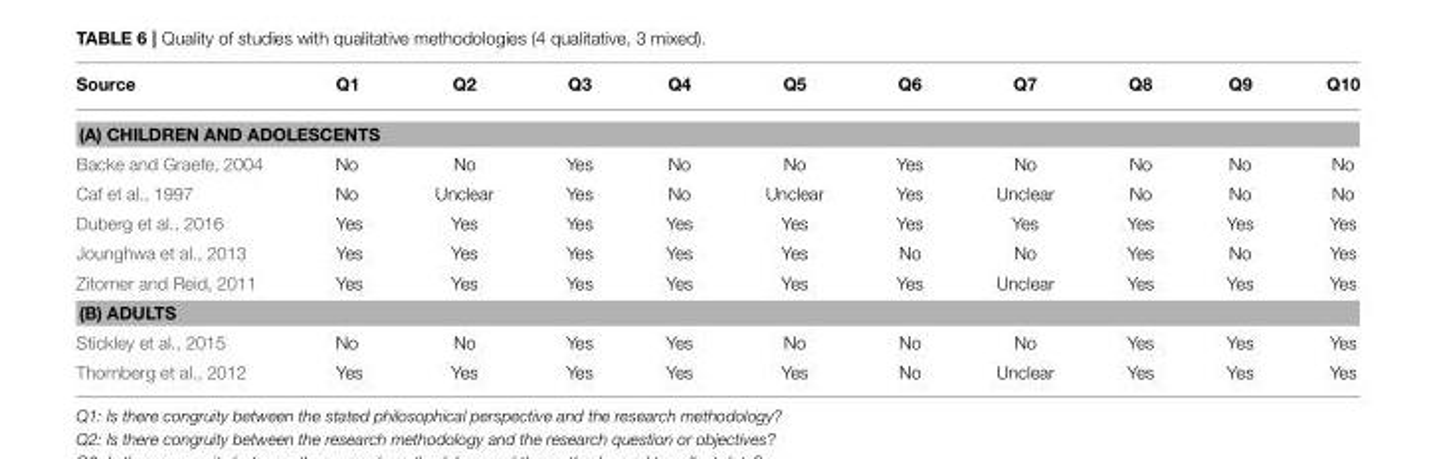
<table><thead><tr><td>Source</td><td>Q1</td><td>Q2</td><td>Q3</td><td>Q4</td><td>Q5</td><td>Q6</td><td>Q7</td><td>Q8</td><td>Q9</td><td>Q10</td></tr></thead><tbody><tr><td colspan="11">(A) CHILDREN AND ADOLESCENTS</td></tr><tr><td>Backe and Graefe, 2004</td><td>No</td><td>No</td><td>Yes</td><td>No</td><td>No</td><td>Yes</td><td>No</td><td>No</td><td>No</td><td>No</td></tr><tr><td>Caf et al., 1997</td><td>No</td><td>Unclear</td><td>Yes</td><td>No</td><td>Unclear</td><td>Yes</td><td>Unclear</td><td>No</td><td>No</td><td>No</td></tr><tr><td>Duberg et al., 2016</td><td>Yes</td><td>Yes</td><td>Yes</td><td>Yes</td><td>Yes</td><td>Yes</td><td>Yes</td><td>Yes</td><td>Yes</td><td>Yes</td></tr><tr><td>Jounghwa et al., 2013</td><td>Yes</td><td>Yes</td><td>Yes</td><td>Yes</td><td>Yes</td><td>No</td><td>No</td><td>Yes</td><td>No</td><td>Yes</td></tr><tr><td>Zitomer and Reid, 2011</td><td>Yes</td><td>Yes</td><td>Yes</td><td>Yes</td><td>Yes</td><td>Yes</td><td>Unclear</td><td>Yes</td><td>Yes</td><td>Yes</td></tr><tr><td colspan="11">(B) ADULTS</td></tr><tr><td>Stickley et al., 2015</td><td>No</td><td>No</td><td>Yes</td><td>Yes</td><td>No</td><td>No</td><td>No</td><td>Yes</td><td>Yes</td><td>Yes</td></tr><tr><td>Thornberg et al., 2012</td><td>Yes</td><td>Yes</td><td>Yes</td><td>Yes</td><td>Yes</td><td>No</td><td>Unclear</td><td>Yes</td><td>Yes</td><td>Yes</td></tr></tbody></table>